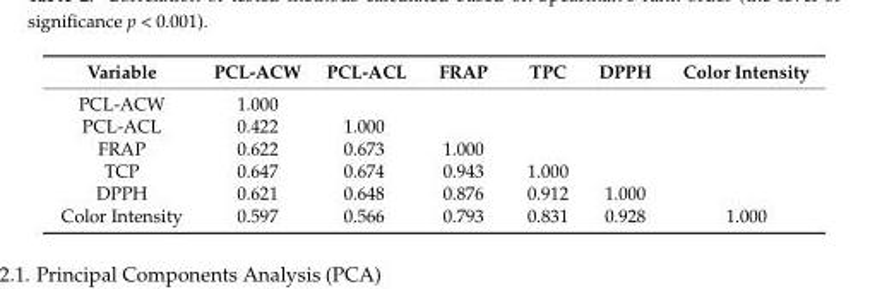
<table><thead><tr><td>Variable</td><td>PCL-ACW</td><td>PCL-ACL</td><td>FRAP</td><td>TPC</td><td>DPPH</td><td>Color Intensity</td></tr></thead><tbody><tr><td>PCL-ACW</td><td>1.000</td><td></td><td></td><td></td><td></td><td></td></tr><tr><td>PCL-ACL</td><td>0.422</td><td>1.000</td><td></td><td></td><td></td><td></td></tr><tr><td>FRAP</td><td>0.622</td><td>0.673</td><td>1.000</td><td></td><td></td><td></td></tr><tr><td>TCP</td><td>0.647</td><td>0.674</td><td>0.943</td><td>1.000</td><td></td><td></td></tr><tr><td>DPPH</td><td>0.621</td><td>0.648</td><td>0.876</td><td>0.912</td><td>1.000</td><td></td></tr><tr><td>Color Intensity</td><td>0.597</td><td>0.566</td><td>0.793</td><td>0.831</td><td>0.928</td><td>1.000</td></tr></tbody></table>